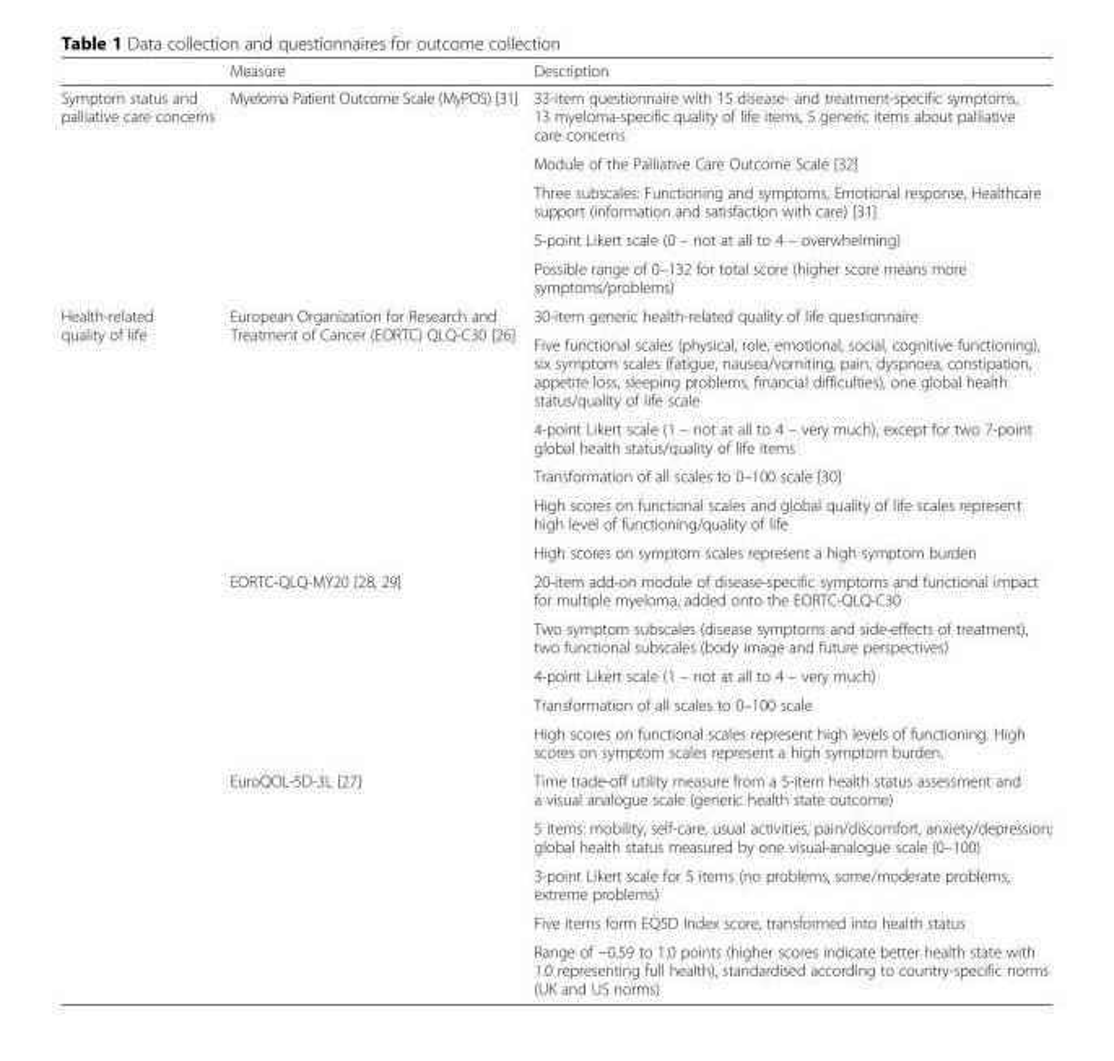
<table><thead><tr><td></td><td>Measure</td><td>Description</td></tr></thead><tbody><tr><td rowspan="5">Symptom status and palliative care concerns</td><td rowspan="5">Myeloma Patient Outcome Scale (MyPOS) [31]</td><td>33-item questionnaire with 15 disease- and treatment-specific symptoms, 13 myeloma-specific quality of life items, 5 generic items about palliative care concerns</td></tr><tr><td>Module of the Palliative Care Outcome Scale [32]</td></tr><tr><td>Three subscales: Functioning and symptoms, Emotional response, Healthcare support (information and satisfaction with care) [31]</td></tr><tr><td>5-point Likert scale (0 – not at all to 4 – overwhelming)</td></tr><tr><td>Possible range of 0–132 for total score (higher score means more symptoms/problems)</td></tr><tr><td rowspan="16">Health-related quality of life</td><td rowspan="6">European Organization for Research and Treatment of Cancer (EORTC) QLQ-C30 [26]</td><td>30-item generic health-related quality of life questionnaire</td></tr><tr><td>Five functional scales (physical, role, emotional, social, cognitive functioning), six symptom scales (fatigue, nausea/vomiting, pain, dyspnoea, constipation, appetite loss, sleeping problems, financial difficulties), one global health status/quality of life scale</td></tr><tr><td>4-point Likert scale (1 – not at all to 4 – very much), except for two 7-point global health status/quality of life items</td></tr><tr><td>Transformation of all scales to 0–100 scale [30]</td></tr><tr><td>High scores on functional scales and global quality of life scales represent high level of functioning/quality of life</td></tr><tr><td>High scores on symptom scales represent a high symptom burden</td></tr><tr><td rowspan="5">EORTC-QLQ-MY20 [28, 29]</td><td>20-item add-on module of disease-specific symptoms and functional impact for multiple myeloma, added onto the EORTC-QLQ-C30</td></tr><tr><td>Two symptom subscales (disease symptoms and side-effects of treatment), two functional subscales (body image and future perspectives)</td></tr><tr><td>4-point Likert scale (1 – not at all to 4 – very much)</td></tr><tr><td>Transformation of all scales to 0–100 scale</td></tr><tr><td>High scores on functional scales represent high levels of functioning. High scores on symptom scales represent a high symptom burden.</td></tr><tr><td rowspan="5">EuroQOL-5D-3L [27]</td><td>Time trade-off utility measure from a 5-item health status assessment and a visual analogue scale (generic health state outcome)</td></tr><tr><td>5 items: mobility, self-care, usual activities, pain/discomfort, anxiety/depression; global health status measured by one visual-analogue scale (0–100)</td></tr><tr><td>3-point Likert scale for 5 items (no problems, some/moderate problems, extreme problems)</td></tr><tr><td>Five items form EQ5D Index score, transformed into health status</td></tr><tr><td>Range of −0.59 to 1.0 points (higher scores indicate better health state with 1.0 representing full health), standardised according to country-specific norms (UK and US norms)</td></tr></tbody></table>